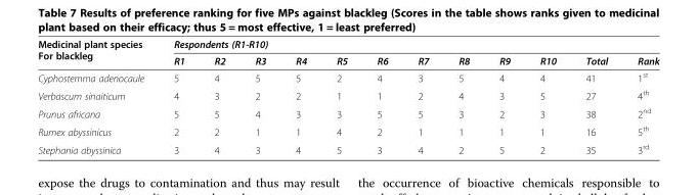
<table><thead><tr><td rowspan="2">Medicinal plant species For blackleg</td><td colspan="12">Respondents (R1-R10)</td></tr><tr><td>R1</td><td>R2</td><td>R3</td><td>R4</td><td>R5</td><td>R6</td><td>R7</td><td>R8</td><td>R9</td><td>R10</td><td>Total</td><td>Rank</td></tr></thead><tbody><tr><td>Cyphostemma adenocaule</td><td>5</td><td>4</td><td>5</td><td>5</td><td>2</td><td>4</td><td>3</td><td>5</td><td>4</td><td>4</td><td>41</td><td>1<sup>st</sup></td></tr><tr><td>Verbascum sinaiticum</td><td>4</td><td>3</td><td>2</td><td>2</td><td>1</td><td>1</td><td>2</td><td>4</td><td>3</td><td>5</td><td>27</td><td>4<sup>th</sup></td></tr><tr><td>Prunus africana</td><td>5</td><td>5</td><td>4</td><td>3</td><td>3</td><td>5</td><td>5</td><td>3</td><td>2</td><td>3</td><td>38</td><td>2<sup>nd</sup></td></tr><tr><td>Rumex abyssinicus</td><td>2</td><td>2</td><td>1</td><td>1</td><td>4</td><td>2</td><td>1</td><td>1</td><td>1</td><td>1</td><td>16</td><td>5<sup>th</sup></td></tr><tr><td>Stephania abyssinica</td><td>3</td><td>4</td><td>3</td><td>4</td><td>5</td><td>3</td><td>4</td><td>2</td><td>5</td><td>2</td><td>35</td><td>3<sup>rd</sup></td></tr></tbody></table>